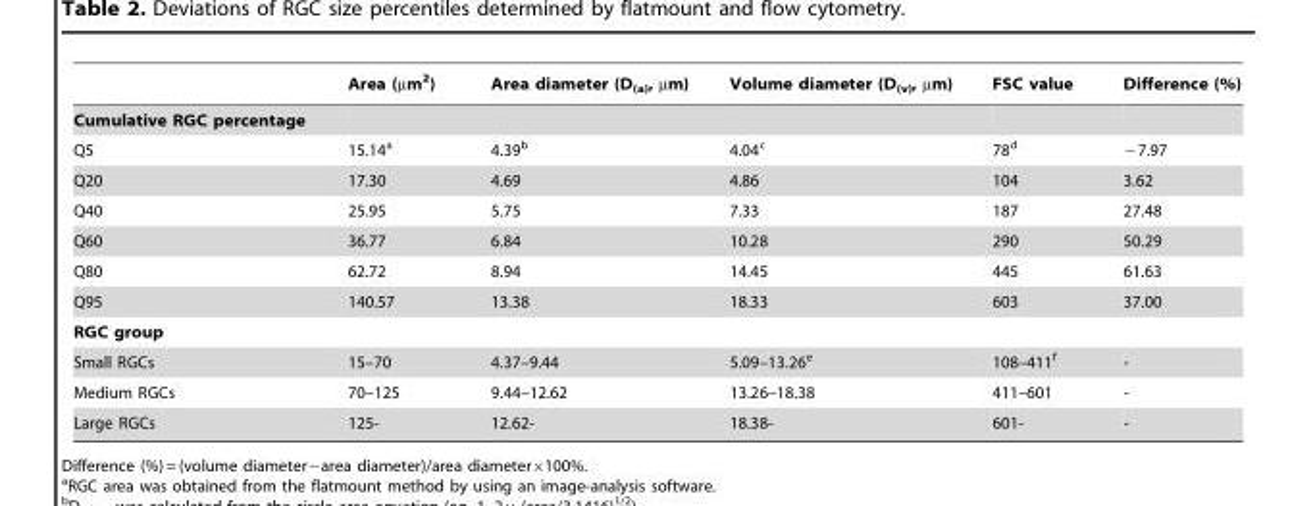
<table><thead><tr><td></td><td>Area (µm<sup>2</sup>)</td><td>Area diameter (D<sub>(a)</sub>, µm)</td><td>Volume diameter (D<sub>(v)</sub>, µm)</td><td>FSC value</td><td>Difference (%)</td></tr></thead><tbody><tr><td colspan="6">Cumulative RGC percentage</td></tr><tr><td>Q5</td><td>15.14<sup>a</sup></td><td>4.39<sup>b</sup></td><td>4.04<sup>c</sup></td><td>78<sup>d</sup></td><td>−7.97</td></tr><tr><td>Q20</td><td>17.30</td><td>4.69</td><td>4.86</td><td>104</td><td>3.62</td></tr><tr><td>Q40</td><td>25.95</td><td>5.75</td><td>7.33</td><td>187</td><td>27.48</td></tr><tr><td>Q60</td><td>36.77</td><td>6.84</td><td>10.28</td><td>290</td><td>50.29</td></tr><tr><td>Q80</td><td>62.72</td><td>8.94</td><td>14.45</td><td>445</td><td>61.63</td></tr><tr><td>Q95</td><td>140.57</td><td>13.38</td><td>18.33</td><td>603</td><td>37.00</td></tr><tr><td colspan="6">RGC group</td></tr><tr><td>Small RGCs</td><td>15–70</td><td>4.37–9.44</td><td>5.09–13.26<sup>e</sup></td><td>108–411<sup>f</sup></td><td>-</td></tr><tr><td>Medium RGCs</td><td>70–125</td><td>9.44–12.62</td><td>13.26–18.38</td><td>411–601</td><td>-</td></tr><tr><td>Large RGCs</td><td>125-</td><td>12.62-</td><td>18.38-</td><td>601-</td><td>-</td></tr></tbody></table>